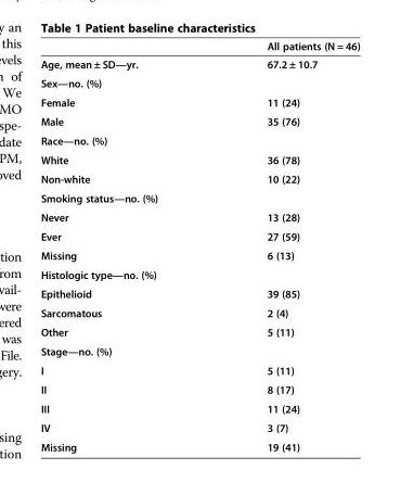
<table><thead><tr><td></td><td>All patients (N = 46)</td></tr></thead><tbody><tr><td>Age, mean ± SD—yr.</td><td>67.2 ± 10.7</td></tr><tr><td colspan="2">Sex—no. (%)</td></tr><tr><td>Female</td><td>11 (24)</td></tr><tr><td>Male</td><td>35 (76)</td></tr><tr><td colspan="2">Race—no. (%)</td></tr><tr><td>White</td><td>36 (78)</td></tr><tr><td>Non-white</td><td>10 (22)</td></tr><tr><td colspan="2">Smoking status—no. (%)</td></tr><tr><td>Never</td><td>13 (28)</td></tr><tr><td>Ever</td><td>27 (59)</td></tr><tr><td>Missing</td><td>6 (13)</td></tr><tr><td colspan="2">Histologic type—no. (%)</td></tr><tr><td>Epithelioid</td><td>39 (85)</td></tr><tr><td>Sarcomatous</td><td>2 (4)</td></tr><tr><td>Other</td><td>5 (11)</td></tr><tr><td colspan="2">Stage—no. (%)</td></tr><tr><td>I</td><td>5 (11)</td></tr><tr><td>II</td><td>8 (17)</td></tr><tr><td>III</td><td>11 (24)</td></tr><tr><td>IV</td><td>3 (7)</td></tr><tr><td>Missing</td><td>19 (41)</td></tr></tbody></table>